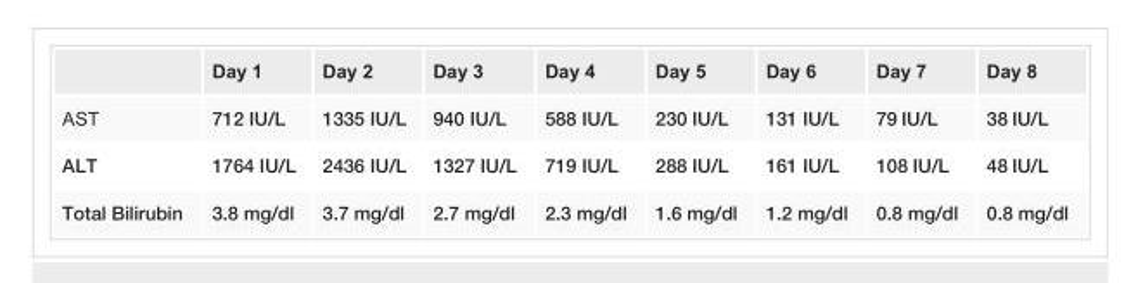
<table><thead><tr><td></td><td>Day 1</td><td>Day 2</td><td>Day 3</td><td>Day 4</td><td>Day 5</td><td>Day 6</td><td>Day 7</td><td>Day 8</td></tr></thead><tbody><tr><td>AST</td><td>712 IU/L</td><td>1335 IU/L</td><td>940 IU/L</td><td>588 IU/L</td><td>230 IU/L</td><td>131 IU/L</td><td>79 IU/L</td><td>38 IU/L</td></tr><tr><td>ALT</td><td>1764 IU/L</td><td>2436 IU/L</td><td>1327 IU/L</td><td>719 IU/L</td><td>288 IU/L</td><td>161 IU/L</td><td>108 IU/L</td><td>48 IU/L</td></tr><tr><td>Total Bilirubin</td><td>3.8 mg/dl</td><td>3.7 mg/dl</td><td>2.7 mg/dl</td><td>2.3 mg/dl</td><td>1.6 mg/dl</td><td>1.2 mg/dl</td><td>0.8 mg/dl</td><td>0.8 mg/dl</td></tr></tbody></table>